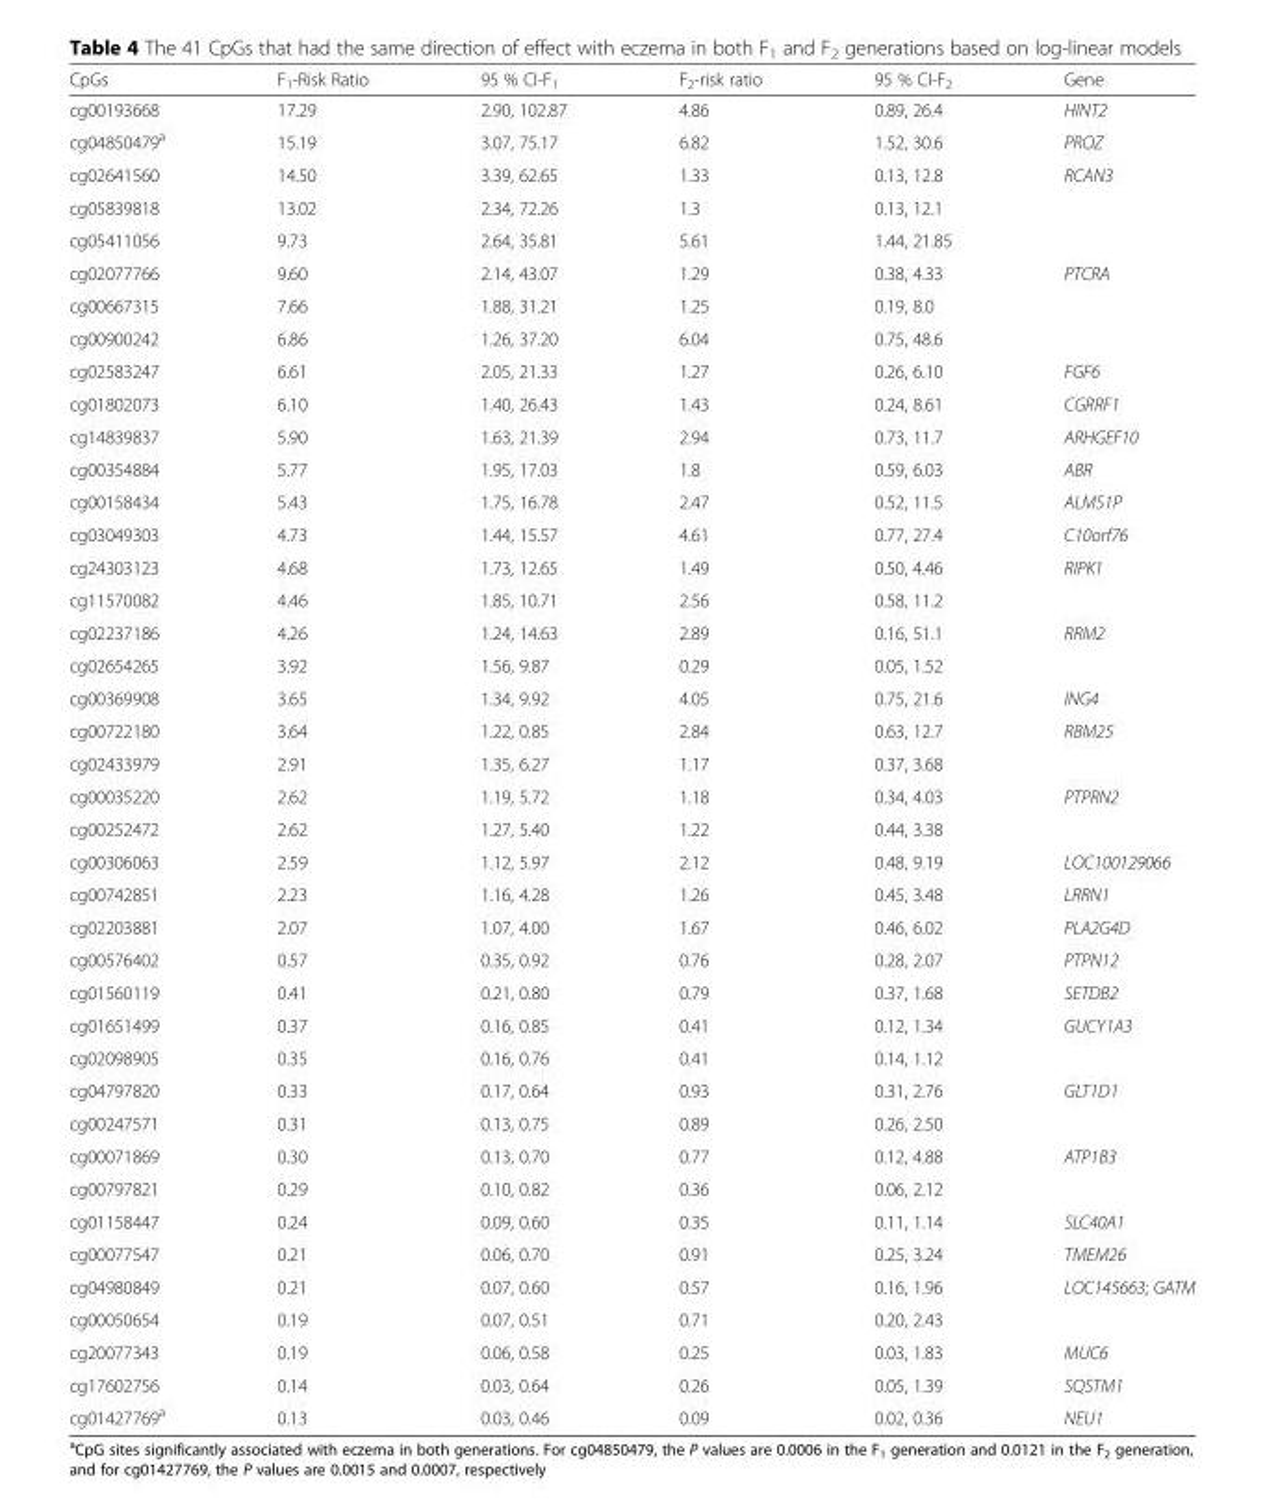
<table><thead><tr><td>CpGs</td><td>F<sub>1</sub>-Risk Ratio</td><td>95 % CI-F<sub>1</sub></td><td>F<sub>2</sub>-risk ratio</td><td>95 % CI-F<sub>2</sub></td><td>Gene</td></tr></thead><tbody><tr><td>cg00193668</td><td>17.29</td><td>2.90, 102.87</td><td>4.86</td><td>0.89, 26.4</td><td>HINT2</td></tr><tr><td>cg04850479<sup>a</sup></td><td>15.19</td><td>3.07, 75.17</td><td>6.82</td><td>1.52, 30.6</td><td>PROZ</td></tr><tr><td>cg02641560</td><td>14.50</td><td>3.39, 62.65</td><td>1.33</td><td>0.13, 12.8</td><td>RCAN3</td></tr><tr><td>cg05839818</td><td>13.02</td><td>2.34, 72.26</td><td>1.3</td><td>0.13, 12.1</td><td></td></tr><tr><td>cg05411056</td><td>9.73</td><td>2.64, 35.81</td><td>5.61</td><td>1.44, 21.85</td><td></td></tr><tr><td>cg02077766</td><td>9.60</td><td>2.14, 43.07</td><td>1.29</td><td>0.38, 4.33</td><td>PTCRA</td></tr><tr><td>cg00667315</td><td>7.66</td><td>1.88, 31.21</td><td>1.25</td><td>0.19, 8.0</td><td></td></tr><tr><td>cg00900242</td><td>6.86</td><td>1.26, 37.20</td><td>6.04</td><td>0.75, 48.6</td><td></td></tr><tr><td>cg02583247</td><td>6.61</td><td>2.05, 21.33</td><td>1.27</td><td>0.26, 6.10</td><td>FGF6</td></tr><tr><td>cg01802073</td><td>6.10</td><td>1.40, 26.43</td><td>1.43</td><td>0.24, 8.61</td><td>CGRRF1</td></tr><tr><td>cg14839837</td><td>5.90</td><td>1.63, 21.39</td><td>2.94</td><td>0.73, 11.7</td><td>ARHGEF10</td></tr><tr><td>cg00354884</td><td>5.77</td><td>1.95, 17.03</td><td>1.8</td><td>0.59, 6.03</td><td>ABR</td></tr><tr><td>cg00158434</td><td>5.43</td><td>1.75, 16.78</td><td>2.47</td><td>0.52, 11.5</td><td>ALMS1P</td></tr><tr><td>cg03049303</td><td>4.73</td><td>1.44, 15.57</td><td>4.61</td><td>0.77, 27.4</td><td>C10orf76</td></tr><tr><td>cg24303123</td><td>4.68</td><td>1.73, 12.65</td><td>1.49</td><td>0.50, 4.46</td><td>RIPK1</td></tr><tr><td>cg11570082</td><td>4.46</td><td>1.85, 10.71</td><td>2.56</td><td>0.58, 11.2</td><td></td></tr><tr><td>cg02237186</td><td>4.26</td><td>1.24, 14.63</td><td>2.89</td><td>0.16, 51.1</td><td>RRM2</td></tr><tr><td>cg02654265</td><td>3.92</td><td>1.56, 9.87</td><td>0.29</td><td>0.05, 1.52</td><td></td></tr><tr><td>cg00369908</td><td>3.65</td><td>1.34, 9.92</td><td>4.05</td><td>0.75, 21.6</td><td>ING4</td></tr><tr><td>cg00722180</td><td>3.64</td><td>1.22, 0.85</td><td>2.84</td><td>0.63, 12.7</td><td>RBM25</td></tr><tr><td>cg02433979</td><td>2.91</td><td>1.35, 6.27</td><td>1.17</td><td>0.37, 3.68</td><td></td></tr><tr><td>cg00035220</td><td>2.62</td><td>1.19, 5.72</td><td>1.18</td><td>0.34, 4.03</td><td>PTPRN2</td></tr><tr><td>cg00252472</td><td>2.62</td><td>1.27, 5.40</td><td>1.22</td><td>0.44, 3.38</td><td></td></tr><tr><td>cg00306063</td><td>2.59</td><td>1.12, 5.97</td><td>2.12</td><td>0.48, 9.19</td><td>LOC100129066</td></tr><tr><td>cg00742851</td><td>2.23</td><td>1.16, 4.28</td><td>1.26</td><td>0.45, 3.48</td><td>LRRN1</td></tr><tr><td>cg02203881</td><td>2.07</td><td>1.07, 4.00</td><td>1.67</td><td>0.46, 6.02</td><td>PLA2G4D</td></tr><tr><td>cg00576402</td><td>0.57</td><td>0.35, 0.92</td><td>0.76</td><td>0.28, 2.07</td><td>PTPN12</td></tr><tr><td>cg01560119</td><td>0.41</td><td>0.21, 0.80</td><td>0.79</td><td>0.37, 1.68</td><td>SETDB2</td></tr><tr><td>cg01651499</td><td>0.37</td><td>0.16, 0.85</td><td>0.41</td><td>0.12, 1.34</td><td>GUCY1A3</td></tr><tr><td>cg02098905</td><td>0.35</td><td>0.16, 0.76</td><td>0.41</td><td>0.14, 1.12</td><td></td></tr><tr><td>cg04797820</td><td>0.33</td><td>0.17, 0.64</td><td>0.93</td><td>0.31, 2.76</td><td>GLT1D1</td></tr><tr><td>cg00247571</td><td>0.31</td><td>0.13, 0.75</td><td>0.89</td><td>0.26, 2.50</td><td></td></tr><tr><td>cg00071869</td><td>0.30</td><td>0.13, 0.70</td><td>0.77</td><td>0.12, 4.88</td><td>ATP1B3</td></tr><tr><td>cg00797821</td><td>0.29</td><td>0.10, 0.82</td><td>0.36</td><td>0.06, 2.12</td><td></td></tr><tr><td>cg01158447</td><td>0.24</td><td>0.09, 0.60</td><td>0.35</td><td>0.11, 1.14</td><td>SLC40A1</td></tr><tr><td>cg00077547</td><td>0.21</td><td>0.06, 0.70</td><td>0.91</td><td>0.25, 3.24</td><td>TMEM26</td></tr><tr><td>cg04980849</td><td>0.21</td><td>0.07, 0.60</td><td>0.57</td><td>0.16, 1.96</td><td>LOC145663; GATM</td></tr><tr><td>cg00050654</td><td>0.19</td><td>0.07, 0.51</td><td>0.71</td><td>0.20, 2.43</td><td></td></tr><tr><td>cg20077343</td><td>0.19</td><td>0.06, 0.58</td><td>0.25</td><td>0.03, 1.83</td><td>MUC6</td></tr><tr><td>cg17602756</td><td>0.14</td><td>0.03, 0.64</td><td>0.26</td><td>0.05, 1.39</td><td>SQSTM1</td></tr><tr><td>cg01427769<sup>a</sup></td><td>0.13</td><td>0.03, 0.46</td><td>0.09</td><td>0.02, 0.36</td><td>NEU1</td></tr></tbody></table>